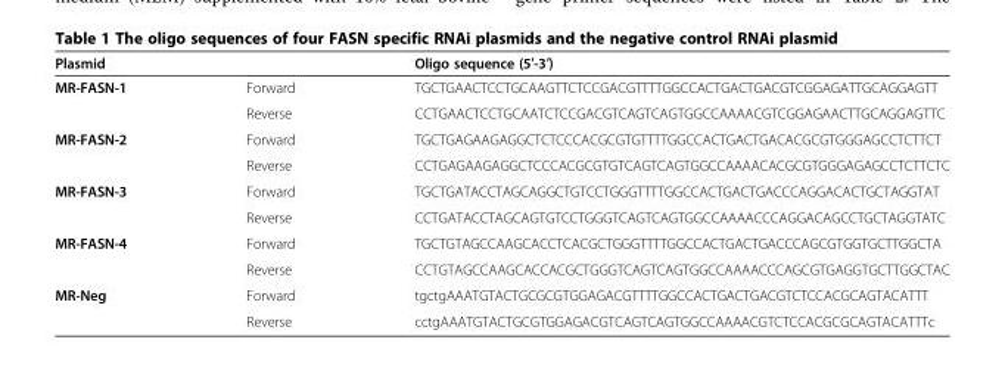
<table><thead><tr><td>Plasmid</td><td></td><td>Oligo sequence (5′-3′)</td></tr></thead><tbody><tr><td rowspan="2">MR-FASN-1</td><td>Forward</td><td>TGCTGAACTCCTGCAAGTTCTCCGACGTTTTGGCCACTGACTGACGTCGGAGATTGCAGGAGTT</td></tr><tr><td>Reverse</td><td>CCTGAACTCCTGCAATCTCCGACGTCAGTCAGTGGCCAAAACGTCGGAGAACTTGCAGGAGTTC</td></tr><tr><td rowspan="2">MR-FASN-2</td><td>Forward</td><td>TGCTGAGAAGAGGCTCTCCCACGCGTGTTTTGGCCACTGACTGACACGCGTGGGAGCCTCTTCT</td></tr><tr><td>Reverse</td><td>CCTGAGAAGAGGCTCCCACGCGTGTCAGTCAGTGGCCAAAACACGCGTGGGAGAGCCTCTTCTC</td></tr><tr><td rowspan="2">MR-FASN-3</td><td>Forward</td><td>TGCTGATACCTAGCAGGCTGTCCTGGGTTTTGGCCACTGACTGACCCAGGACACTGCTAGGTAT</td></tr><tr><td>Reverse</td><td>CCTGATACCTAGCAGTGTCCTGGGTCAGTCAGTGGCCAAAACCCAGGACAGCCTGCTAGGTATC</td></tr><tr><td rowspan="2">MR-FASN-4</td><td>Forward</td><td>TGCTGTAGCCAAGCACCTCACGCTGGGTTTTGGCCACTGACTGACCCAGCGTGGTGCTTGGCTA</td></tr><tr><td>Reverse</td><td>CCTGTAGCCAAGCACCACGCTGGGTCAGTCAGTGGCCAAAACCCAGCGTGAGGTGCTTGGCTAC</td></tr><tr><td rowspan="2">MR-Neg</td><td>Forward</td><td>tgctgAAATGTACTGCGCGTGGAGACGTTTTGGCCACTGACTGACGTCTCCACGCAGTACATTT</td></tr><tr><td>Reverse</td><td>cctgAAATGTACTGCGTGGAGACGTCAGTCAGTGGCCAAAACGTCTCCACGCGCAGTACATTTc</td></tr></tbody></table>